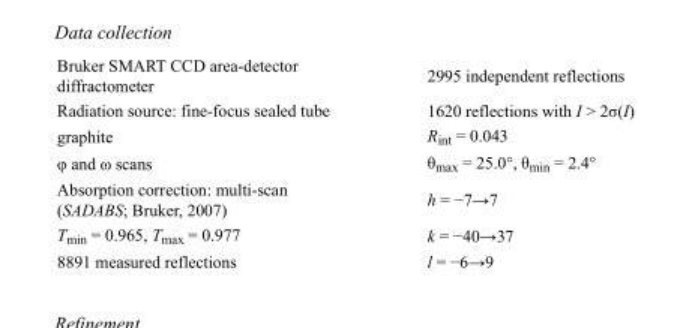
<table><tbody><tr><td>Bruker SMART CCD area-detector diffractometer</td><td>2995 independent reflections</td></tr><tr><td>Radiation source: fine-focus sealed tube</td><td>1620 reflections with I &gt; 2σ(I)</td></tr><tr><td>graphite</td><td>R<sub>int</sub> = 0.043</td></tr><tr><td>φ and ω scans</td><td>θ<sub>max</sub> = 25.0°, θ<sub>min</sub> = 2.4°</td></tr><tr><td>Absorption correction: multi-scan (SADABS; Bruker, 2007)</td><td>h = −7→7</td></tr><tr><td>T<sub>min</sub> = 0.965, T<sub>max</sub> = 0.977</td><td>k = −40→37</td></tr><tr><td>8891 measured reflections</td><td>l = −6→9</td></tr></tbody></table>